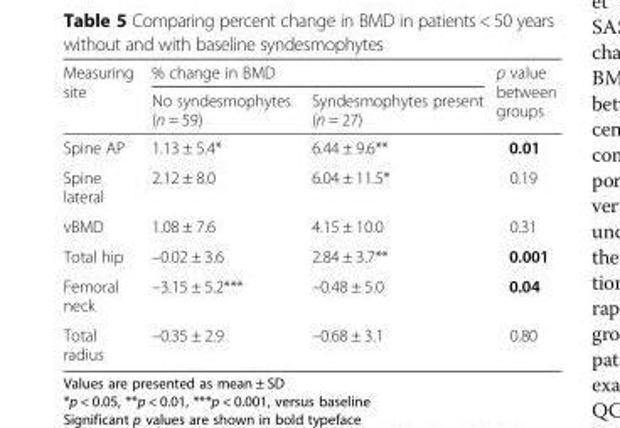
<table><thead><tr><td rowspan="2">Measuring site</td><td colspan="2">% change in BMD</td><td rowspan="2">p value between groups</td></tr><tr><td>No syndesmophytes (n = 59)</td><td>Syndesmophytes present (n = 27)</td></tr></thead><tbody><tr><td>Spine AP</td><td>1.13 ± 5.4*</td><td>6.44 ± 9.6**</td><td>0.01</td></tr><tr><td>Spine lateral</td><td>2.12 ± 8.0</td><td>6.04 ± 11.5*</td><td>0.19</td></tr><tr><td>vBMD</td><td>1.08 ± 7.6</td><td>4.15 ± 10.0</td><td>0.31</td></tr><tr><td>Total hip</td><td>–0.02 ± 3.6</td><td>2.84 ± 3.7**</td><td>0.001</td></tr><tr><td>Femoral neck</td><td>–3.15 ± 5.2***</td><td>–0.48 ± 5.0</td><td>0.04</td></tr><tr><td>Total radius</td><td>–0.35 ± 2.9</td><td>–0.68 ± 3.1</td><td>0.80</td></tr></tbody></table>